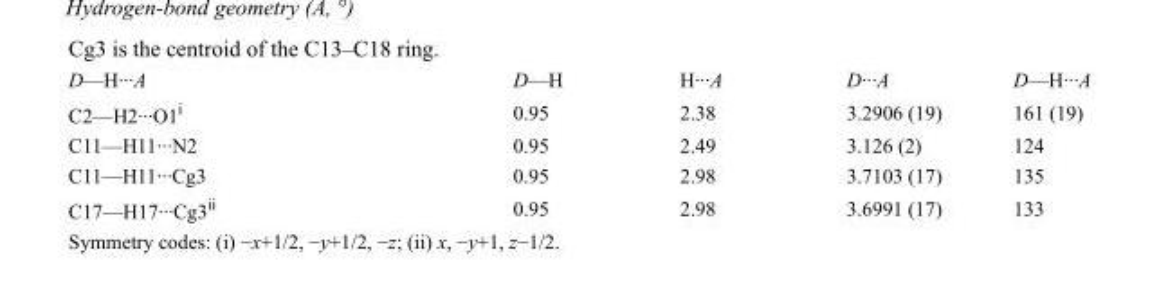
<table><tbody><tr><td>D—H···A</td><td>D—H</td><td>H···A</td><td>D···A</td><td>D—H···A</td></tr><tr><td>C2—H2···O1<sup>i</sup></td><td>0.95</td><td>2.38</td><td>3.2906 (19)</td><td>161 (19)</td></tr><tr><td>C11—H11···N2</td><td>0.95</td><td>2.49</td><td>3.126 (2)</td><td>124</td></tr><tr><td>C11—H11···Cg3</td><td>0.95</td><td>2.98</td><td>3.7103 (17)</td><td>135</td></tr><tr><td>C17—H17···Cg3<sup>ii</sup></td><td>0.95</td><td>2.98</td><td>3.6991 (17)</td><td>133</td></tr></tbody></table>